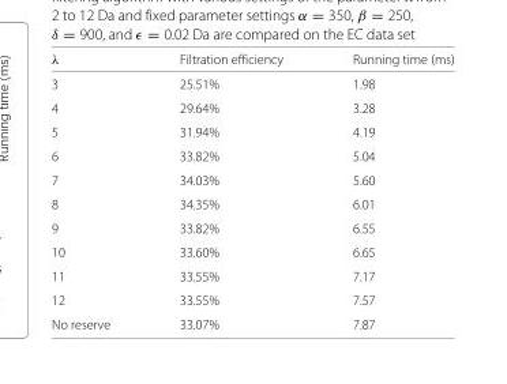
<table><thead><tr><td>λ</td><td>Filtration efficiency</td><td>Running time (ms)</td></tr></thead><tbody><tr><td>3</td><td>25.51%</td><td>1.98</td></tr><tr><td>4</td><td>29.64%</td><td>3.28</td></tr><tr><td>5</td><td>31.94%</td><td>4.19</td></tr><tr><td>6</td><td>33.82%</td><td>5.04</td></tr><tr><td>7</td><td>34.03%</td><td>5.60</td></tr><tr><td>8</td><td>34.35%</td><td>6.01</td></tr><tr><td>9</td><td>33.82%</td><td>6.55</td></tr><tr><td>10</td><td>33.60%</td><td>6.65</td></tr><tr><td>11</td><td>33.55%</td><td>7.17</td></tr><tr><td>12</td><td>33.55%</td><td>7.57</td></tr><tr><td>No reserve</td><td>33.07%</td><td>7.87</td></tr></tbody></table>